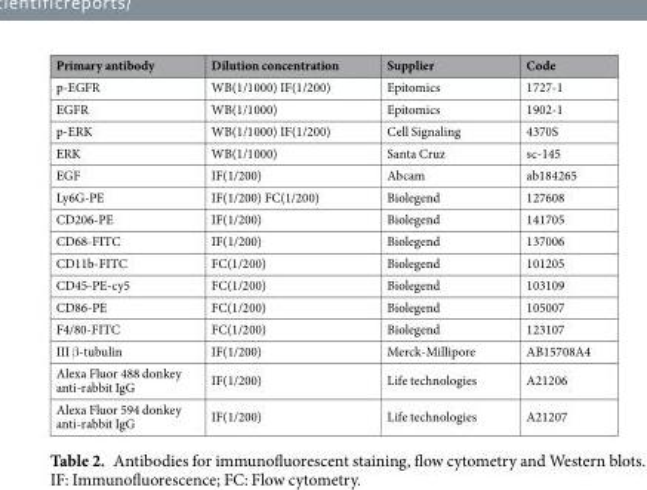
<table><thead><tr><td>Primary antibody</td><td>Dilution concentration</td><td>Supplier</td><td>Code</td></tr></thead><tbody><tr><td>p-EGFR</td><td>WB(1/1000) IF(1/200)</td><td>Epitomics</td><td>1727-1</td></tr><tr><td>EGFR</td><td>WB(1/1000)</td><td>Epitomics</td><td>1902-1</td></tr><tr><td>p-ERK</td><td>WB(1/1000) IF(1/200)</td><td>Cell Signaling</td><td>4370S</td></tr><tr><td>ERK</td><td>WB(1/1000)</td><td>Santa Cruz</td><td>sc-145</td></tr><tr><td>EGF</td><td>IF(1/200)</td><td>Abcam</td><td>ab184265</td></tr><tr><td>Ly6G-PE</td><td>IF(1/200) FC(1/200)</td><td>Biolegend</td><td>127608</td></tr><tr><td>CD206-PE</td><td>IF(1/200)</td><td>Biolegend</td><td>141705</td></tr><tr><td>CD68-FITC</td><td>IF(1/200)</td><td>Biolegend</td><td>137006</td></tr><tr><td>CD11b-FITC</td><td>FC(1/200)</td><td>Biolegend</td><td>101205</td></tr><tr><td>CD45-PE-cy5</td><td>FC(1/200)</td><td>Biolegend</td><td>103109</td></tr><tr><td>CD86-PE</td><td>FC(1/200)</td><td>Biolegend</td><td>105007</td></tr><tr><td>F4/80-FITC</td><td>FC(1/200)</td><td>Biolegend</td><td>123107</td></tr><tr><td>III β-tubulin</td><td>IF(1/200)</td><td>Merck-Millipore</td><td>AB15708A4</td></tr><tr><td>Alexa Fluor 488 donkey anti-rabbit IgG</td><td>IF(1/200)</td><td>Life technologies</td><td>A21206</td></tr><tr><td>Alexa Fluor 594 donkey anti-rabbit IgG</td><td>IF(1/200)</td><td>Life technologies</td><td>A21207</td></tr></tbody></table>